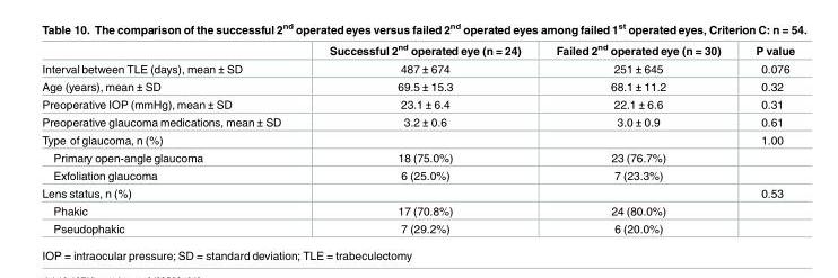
<table><thead><tr><td></td><td>Successful 2<sup>nd</sup> operated eye (n = 24)</td><td>Failed 2<sup>nd</sup> operated eye (n = 30)</td><td>P value</td></tr></thead><tbody><tr><td>Interval between TLE (days), mean ± SD</td><td>487 ± 674</td><td>251 ± 645</td><td>0.076</td></tr><tr><td>Age (years), mean ± SD</td><td>69.5 ± 15.3</td><td>68.1 ± 11.2</td><td>0.32</td></tr><tr><td>Preoperative IOP (mmHg), mean ± SD</td><td>23.1 ± 6.4</td><td>22.1 ± 6.6</td><td>0.31</td></tr><tr><td>Preoperative glaucoma medications, mean ± SD</td><td>3.2 ± 0.6</td><td>3.0 ± 0.9</td><td>0.61</td></tr><tr><td>Type of glaucoma, n (%)</td><td></td><td></td><td>1.00</td></tr><tr><td>Primary open-angle glaucoma</td><td>18 (75.0%)</td><td>23 (76.7%)</td><td></td></tr><tr><td>Exfoliation glaucoma</td><td>6 (25.0%)</td><td>7 (23.3%)</td><td></td></tr><tr><td>Lens status, n (%)</td><td></td><td></td><td>0.53</td></tr><tr><td>Phakic</td><td>17 (70.8%)</td><td>24 (80.0%)</td><td></td></tr><tr><td>Pseudophakic</td><td>7 (29.2%)</td><td>6 (20.0%)</td><td></td></tr></tbody></table>